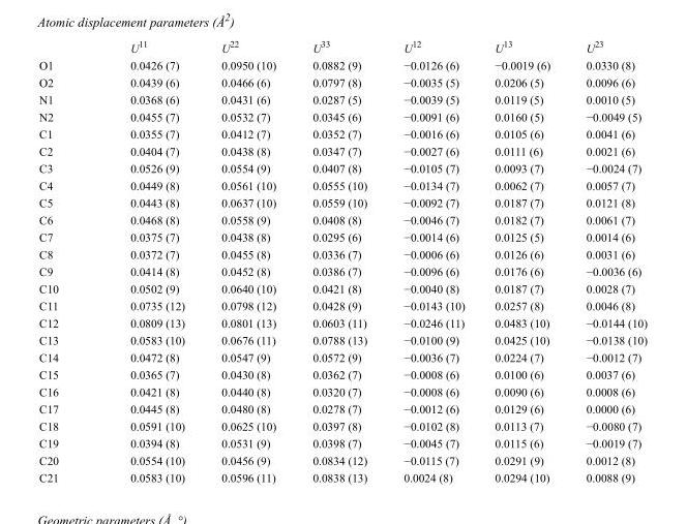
<table><thead><tr><td></td><td>U<sup>11</sup></td><td>U<sup>22</sup></td><td>U<sup>33</sup></td><td>U<sup>12</sup></td><td>U<sup>13</sup></td><td>U<sup>23</sup></td></tr></thead><tbody><tr><td>O1</td><td>0.0426 (7)</td><td>0.0950 (10)</td><td>0.0882 (9)</td><td>−0.0126 (6)</td><td>−0.0019 (6)</td><td>0.0330 (8)</td></tr><tr><td>O2</td><td>0.0439 (6)</td><td>0.0466 (6)</td><td>0.0797 (8)</td><td>−0.0035 (5)</td><td>0.0206 (5)</td><td>0.0096 (6)</td></tr><tr><td>N1</td><td>0.0368 (6)</td><td>0.0431 (6)</td><td>0.0287 (5)</td><td>−0.0039 (5)</td><td>0.0119 (5)</td><td>0.0010 (5)</td></tr><tr><td>N2</td><td>0.0455 (7)</td><td>0.0532 (7)</td><td>0.0345 (6)</td><td>−0.0091 (6)</td><td>0.0160 (5)</td><td>−0.0049 (5)</td></tr><tr><td>C1</td><td>0.0355 (7)</td><td>0.0412 (7)</td><td>0.0352 (7)</td><td>−0.0016 (6)</td><td>0.0105 (6)</td><td>0.0041 (6)</td></tr><tr><td>C2</td><td>0.0404 (7)</td><td>0.0438 (8)</td><td>0.0347 (7)</td><td>−0.0027 (6)</td><td>0.0111 (6)</td><td>0.0021 (6)</td></tr><tr><td>C3</td><td>0.0526 (9)</td><td>0.0554 (9)</td><td>0.0407 (8)</td><td>−0.0105 (7)</td><td>0.0093 (7)</td><td>−0.0024 (7)</td></tr><tr><td>C4</td><td>0.0449 (8)</td><td>0.0561 (10)</td><td>0.0555 (10)</td><td>−0.0134 (7)</td><td>0.0062 (7)</td><td>0.0057 (7)</td></tr><tr><td>C5</td><td>0.0443 (8)</td><td>0.0637 (10)</td><td>0.0559 (10)</td><td>−0.0092 (7)</td><td>0.0187 (7)</td><td>0.0121 (8)</td></tr><tr><td>C6</td><td>0.0468 (8)</td><td>0.0558 (9)</td><td>0.0408 (8)</td><td>−0.0046 (7)</td><td>0.0182 (7)</td><td>0.0061 (7)</td></tr><tr><td>C7</td><td>0.0375 (7)</td><td>0.0438 (8)</td><td>0.0295 (6)</td><td>−0.0014 (6)</td><td>0.0125 (5)</td><td>0.0014 (6)</td></tr><tr><td>C8</td><td>0.0372 (7)</td><td>0.0455 (8)</td><td>0.0336 (7)</td><td>−0.0006 (6)</td><td>0.0126 (6)</td><td>0.0031 (6)</td></tr><tr><td>C9</td><td>0.0414 (8)</td><td>0.0452 (8)</td><td>0.0386 (7)</td><td>−0.0096 (6)</td><td>0.0176 (6)</td><td>−0.0036 (6)</td></tr><tr><td>C10</td><td>0.0502 (9)</td><td>0.0640 (10)</td><td>0.0421 (8)</td><td>−0.0040 (8)</td><td>0.0187 (7)</td><td>0.0028 (7)</td></tr><tr><td>C11</td><td>0.0735 (12)</td><td>0.0798 (12)</td><td>0.0428 (9)</td><td>−0.0143 (10)</td><td>0.0257 (8)</td><td>0.0046 (8)</td></tr><tr><td>C12</td><td>0.0809 (13)</td><td>0.0801 (13)</td><td>0.0603 (11)</td><td>−0.0246 (11)</td><td>0.0483 (10)</td><td>−0.0144 (10)</td></tr><tr><td>C13</td><td>0.0583 (10)</td><td>0.0676 (11)</td><td>0.0788 (13)</td><td>−0.0100 (9)</td><td>0.0425 (10)</td><td>−0.0138 (10)</td></tr><tr><td>C14</td><td>0.0472 (8)</td><td>0.0547 (9)</td><td>0.0572 (9)</td><td>−0.0036 (7)</td><td>0.0224 (7)</td><td>−0.0012 (7)</td></tr><tr><td>C15</td><td>0.0365 (7)</td><td>0.0430 (8)</td><td>0.0362 (7)</td><td>−0.0008 (6)</td><td>0.0100 (6)</td><td>0.0037 (6)</td></tr><tr><td>C16</td><td>0.0421 (8)</td><td>0.0440 (8)</td><td>0.0320 (7)</td><td>−0.0008 (6)</td><td>0.0090 (6)</td><td>0.0008 (6)</td></tr><tr><td>C17</td><td>0.0445 (8)</td><td>0.0480 (8)</td><td>0.0278 (7)</td><td>−0.0012 (6)</td><td>0.0129 (6)</td><td>0.0000 (6)</td></tr><tr><td>C18</td><td>0.0591 (10)</td><td>0.0625 (10)</td><td>0.0397 (8)</td><td>−0.0102 (8)</td><td>0.0113 (7)</td><td>−0.0080 (7)</td></tr><tr><td>C19</td><td>0.0394 (8)</td><td>0.0531 (9)</td><td>0.0398 (7)</td><td>−0.0045 (7)</td><td>0.0115 (6)</td><td>−0.0019 (7)</td></tr><tr><td>C20</td><td>0.0554 (10)</td><td>0.0456 (9)</td><td>0.0834 (12)</td><td>−0.0115 (7)</td><td>0.0291 (9)</td><td>0.0012 (8)</td></tr><tr><td>C21</td><td>0.0583 (10)</td><td>0.0596 (11)</td><td>0.0838 (13)</td><td>0.0024 (8)</td><td>0.0294 (10)</td><td>0.0088 (9)</td></tr></tbody></table>